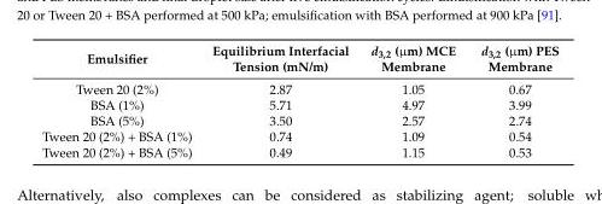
<table><thead><tr><td>Emulsifier</td><td>Equilibrium Interfacial Tension (mN/m)</td><td>d<sub>3,2</sub> (µm) MCE Membrane</td><td>d<sub>3,2</sub> (µm) PES Membrane</td></tr></thead><tbody><tr><td>Tween 20 (2%)</td><td>2.87</td><td>1.05</td><td>0.67</td></tr><tr><td>BSA (1%)</td><td>5.71</td><td>4.97</td><td>3.99</td></tr><tr><td>BSA (5%)</td><td>3.50</td><td>2.57</td><td>2.74</td></tr><tr><td>Tween 20 (2%) + BSA (1%)</td><td>0.74</td><td>1.09</td><td>0.54</td></tr><tr><td>Tween 20 (2%) + BSA (5%)</td><td>0.49</td><td>1.15</td><td>0.53</td></tr></tbody></table>